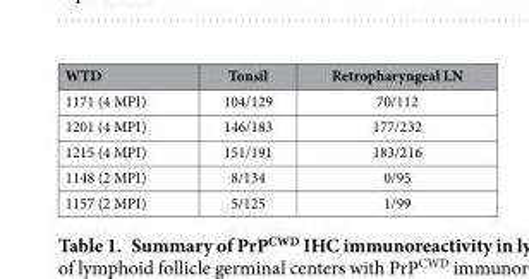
<table><thead><tr><td>WTD</td><td>Tonsil</td><td>Retropharyngeal LN</td></tr></thead><tbody><tr><td>1171 (4 MPI)</td><td>104/129</td><td>70/112</td></tr><tr><td>1201 (4 MPI)</td><td>146/183</td><td>177/232</td></tr><tr><td>1215 (4 MPI)</td><td>151/191</td><td>183/216</td></tr><tr><td>1148 (2 MPI)</td><td>8/134</td><td>0/95</td></tr><tr><td>1157 (2 MPI)</td><td>5/125</td><td>1/99</td></tr></tbody></table>